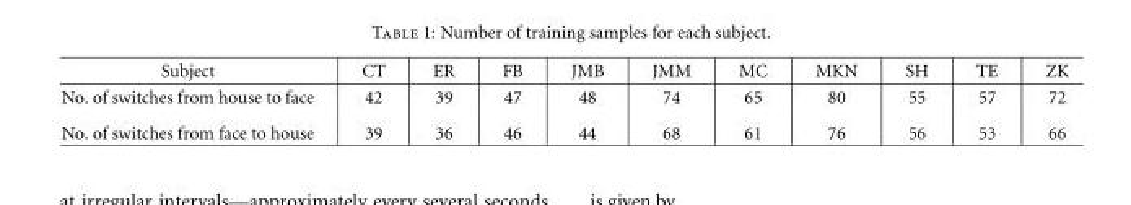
<table><thead><tr><td>Subject</td><td>CT</td><td>ER</td><td>FB</td><td>JMB</td><td>JMM</td><td>MC</td><td>MKN</td><td>SH</td><td>TE</td><td>ZK</td></tr></thead><tbody><tr><td>No. of switches from house to face</td><td>42</td><td>39</td><td>47</td><td>48</td><td>74</td><td>65</td><td>80</td><td>55</td><td>57</td><td>72</td></tr><tr><td>No. of switches from face to house</td><td>39</td><td>36</td><td>46</td><td>44</td><td>68</td><td>61</td><td>76</td><td>56</td><td>53</td><td>66</td></tr></tbody></table>